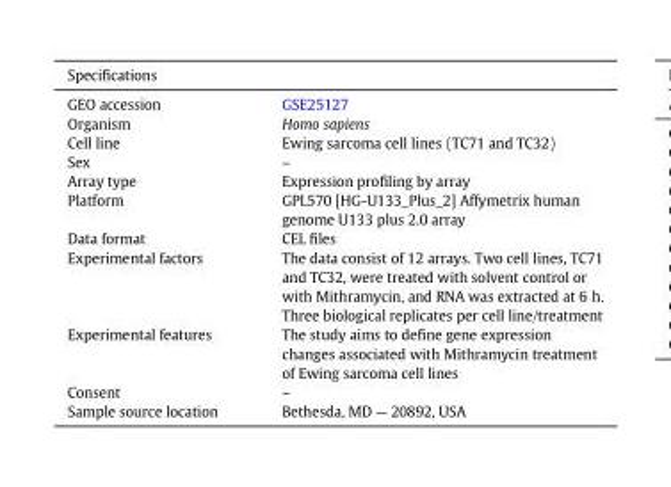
<table><thead><tr><td colspan="2">Specifications</td></tr><tr><td>GEO accession</td><td>GSE25127</td></tr></thead><tbody><tr><td>Organism</td><td>Homo sapiens</td></tr><tr><td>Cell line</td><td>Ewing sarcoma cell lines (TC71 and TC32)</td></tr><tr><td>Sex</td><td>–</td></tr><tr><td>Array type</td><td>Expression profiling by array</td></tr><tr><td>Platform</td><td>GPL570 [HG-U133_Plus_2] Affymetrix human genome U133 plus 2.0 array</td></tr><tr><td>Data format</td><td>CEL files</td></tr><tr><td>Experimental factors</td><td>The data consist of 12 arrays. Two cell lines, TC71 and TC32, were treated with solvent control or with Mithramycin, and RNA was extracted at 6 h. Three biological replicates per cell line/treatment</td></tr><tr><td>Experimental features</td><td>The study aims to define gene expression changes associated with Mithramycin treatment of Ewing sarcoma cell lines</td></tr><tr><td>Consent</td><td>–</td></tr><tr><td>Sample source location</td><td>Bethesda, MD — 20892, USA</td></tr></tbody></table>